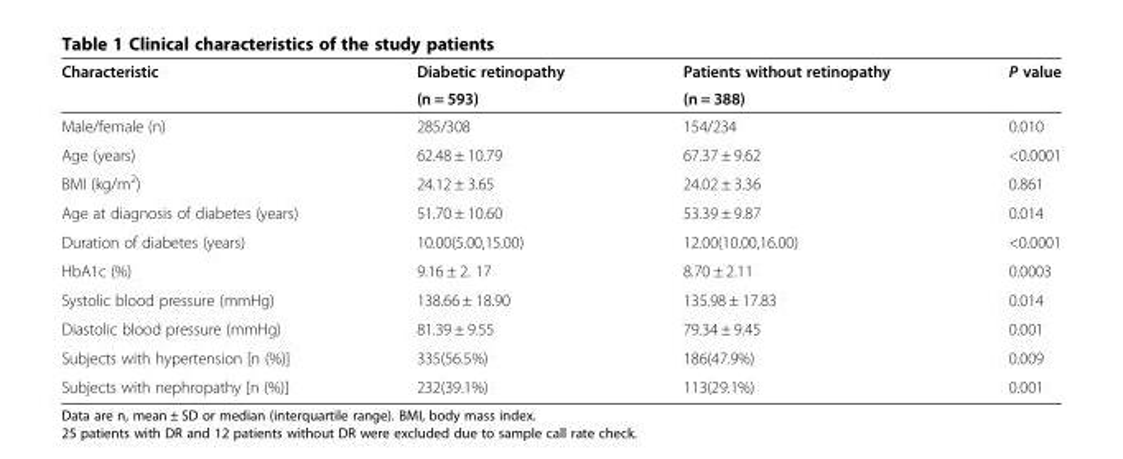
<table><thead><tr><td rowspan="2">Characteristic</td><td rowspan="2">Diabetic retinopathy (n = 593)</td><td rowspan="2">Patients without retinopathy (n = 388)</td><td rowspan="2">P value</td></tr><tr></tr></thead><tbody><tr><td>Male/female (n)</td><td>285/308</td><td>154/234</td><td>0.010</td></tr><tr><td>Age (years)</td><td>62.48 ± 10.79</td><td>67.37 ± 9.62</td><td>&lt;0.0001</td></tr><tr><td>BMI (kg/m<sup>2</sup>)</td><td>24.12 ± 3.65</td><td>24.02 ± 3.36</td><td>0.861</td></tr><tr><td>Age at diagnosis of diabetes (years)</td><td>51.70 ± 10.60</td><td>53.39 ± 9.87</td><td>0.014</td></tr><tr><td>Duration of diabetes (years)</td><td>10.00(5.00,15.00)</td><td>12.00(10.00,16.00)</td><td>&lt;0.0001</td></tr><tr><td>HbA1c (%)</td><td>9.16 ± 2. 17</td><td>8.70 ± 2.11</td><td>0.0003</td></tr><tr><td>Systolic blood pressure (mmHg)</td><td>138.66 ± 18.90</td><td>135.98 ± 17.83</td><td>0.014</td></tr><tr><td>Diastolic blood pressure (mmHg)</td><td>81.39 ± 9.55</td><td>79.34 ± 9.45</td><td>0.001</td></tr><tr><td>Subjects with hypertension [n (%)]</td><td>335(56.5%)</td><td>186(47.9%)</td><td>0.009</td></tr><tr><td>Subjects with nephropathy [n (%)]</td><td>232(39.1%)</td><td>113(29.1%)</td><td>0.001</td></tr></tbody></table>